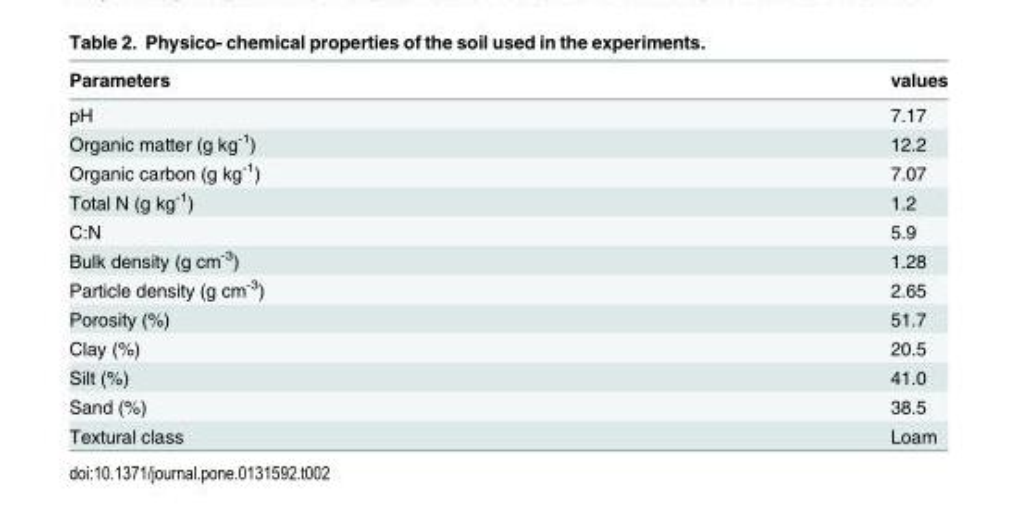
<table><thead><tr><td>Parameters</td><td>values</td></tr></thead><tbody><tr><td>pH</td><td>7.17</td></tr><tr><td>Organic matter (g kg<sup>-1</sup>)</td><td>12.2</td></tr><tr><td>Organic carbon (g kg<sup>-1</sup>)</td><td>7.07</td></tr><tr><td>Total N (g kg<sup>-1</sup>)</td><td>1.2</td></tr><tr><td>C:N</td><td>5.9</td></tr><tr><td>Bulk density (g cm<sup>-3</sup>)</td><td>1.28</td></tr><tr><td>Particle density (g cm<sup>-3</sup>)</td><td>2.65</td></tr><tr><td>Porosity (%)</td><td>51.7</td></tr><tr><td>Clay (%)</td><td>20.5</td></tr><tr><td>Silt (%)</td><td>41.0</td></tr><tr><td>Sand (%)</td><td>38.5</td></tr><tr><td>Textural class</td><td>Loam</td></tr></tbody></table>